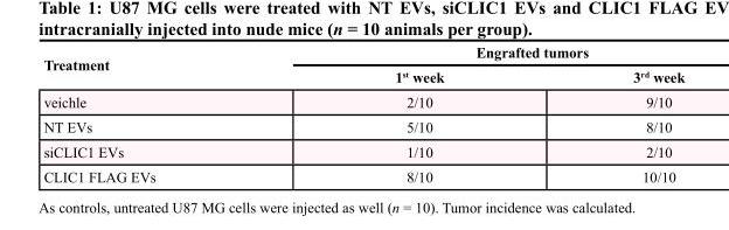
<table><thead><tr><td rowspan="2">Treatment</td><td colspan="2">Engrafted tumors</td></tr><tr><td>1<sup>st</sup> week</td><td>3<sup>rd</sup> week</td></tr></thead><tbody><tr><td>veichle</td><td>2/10</td><td>9/10</td></tr><tr><td>NT EVs</td><td>5/10</td><td>8/10</td></tr><tr><td>siCLIC1 EVs</td><td>1/10</td><td>2/10</td></tr><tr><td>CLIC1 FLAG EVs</td><td>8/10</td><td>10/10</td></tr></tbody></table>